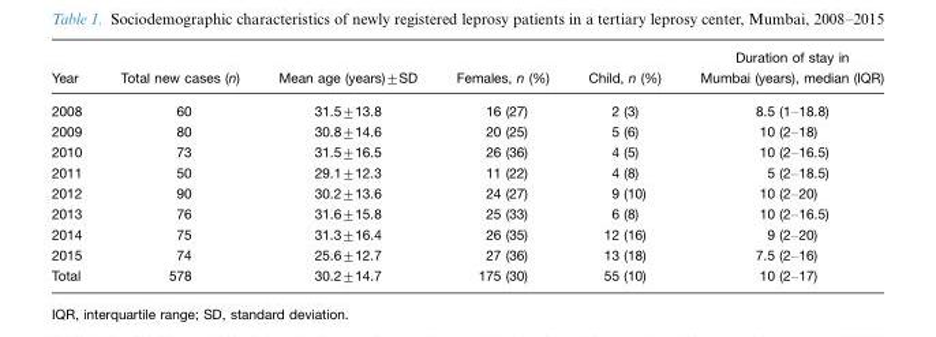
<table><thead><tr><td>Year</td><td>Total new cases (n)</td><td>Mean age (years)±SD</td><td>Females, n (%)</td><td>Child, n (%)</td><td>Duration of stay in Mumbai (years), median (IQR)</td></tr></thead><tbody><tr><td>2008</td><td>60</td><td>31.5±13.8</td><td>16 (27)</td><td>2 (3)</td><td>8.5 (1–18.8)</td></tr><tr><td>2009</td><td>80</td><td>30.8±14.6</td><td>20 (25)</td><td>5 (6)</td><td>10 (2–18)</td></tr><tr><td>2010</td><td>73</td><td>31.5±16.5</td><td>26 (36)</td><td>4 (5)</td><td>10 (2–16.5)</td></tr><tr><td>2011</td><td>50</td><td>29.1±12.3</td><td>11 (22)</td><td>4 (8)</td><td>5 (2–18.5)</td></tr><tr><td>2012</td><td>90</td><td>30.2±13.6</td><td>24 (27)</td><td>9 (10)</td><td>10 (2–20)</td></tr><tr><td>2013</td><td>76</td><td>31.6±15.8</td><td>25 (33)</td><td>6 (8)</td><td>10 (2–16.5)</td></tr><tr><td>2014</td><td>75</td><td>31.3±16.4</td><td>26 (35)</td><td>12 (16)</td><td>9 (2–20)</td></tr><tr><td>2015</td><td>74</td><td>25.6±12.7</td><td>27 (36)</td><td>13 (18)</td><td>7.5 (2–16)</td></tr><tr><td>Total</td><td>578</td><td>30.2±14.7</td><td>175 (30)</td><td>55 (10)</td><td>10 (2–17)</td></tr></tbody></table>